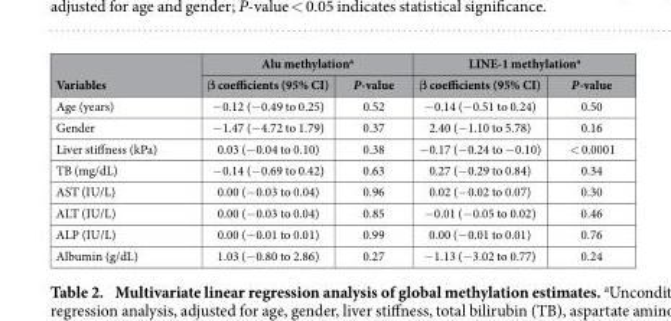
<table><thead><tr><td rowspan="2">Variables</td><td colspan="2">Alu methylation<sup>a</sup></td><td colspan="2">LINE-1 methylation<sup>a</sup></td></tr><tr><td>β coefficients (95% CI)</td><td>P-value</td><td>β coefficients (95% CI)</td><td>P-value</td></tr></thead><tbody><tr><td>Age (years)</td><td>− 0.12 (− 0.49 to 0.25)</td><td>0.52</td><td>− 0.14 (− 0.51 to 0.24)</td><td>0.50</td></tr><tr><td>Gender</td><td>− 1.47 (− 4.72 to 1.79)</td><td>0.37</td><td>2.40 (− 1.10 to 5.78)</td><td>0.16</td></tr><tr><td>Liver stiffness (kPa)</td><td>0.03 (− 0.04 to 0.10)</td><td>0.38</td><td>− 0.17 (− 0.24 to − 0.10)</td><td>&lt; 0.0001</td></tr><tr><td>TB (mg/dL)</td><td>− 0.14 (− 0.69 to 0.42)</td><td>0.63</td><td>0.27 (− 0.29 to 0.84)</td><td>0.34</td></tr><tr><td>AST (IU/L)</td><td>0.00 (− 0.03 to 0.04)</td><td>0.96</td><td>0.02 (− 0.02 to 0.07)</td><td>0.30</td></tr><tr><td>ALT (IU/L)</td><td>0.00 (− 0.03 to 0.04)</td><td>0.85</td><td>− 0.01 (− 0.05 to 0.02)</td><td>0.46</td></tr><tr><td>ALP (IU/L)</td><td>0.00 (− 0.01 to 0.01)</td><td>0.99</td><td>0.00 (− 0.01 to 0.01)</td><td>0.76</td></tr><tr><td>Albumin (g/dL)</td><td>1.03 (− 0.80 to 2.86)</td><td>0.27</td><td>− 1.13 (− 3.02 to 0.77)</td><td>0.24</td></tr></tbody></table>